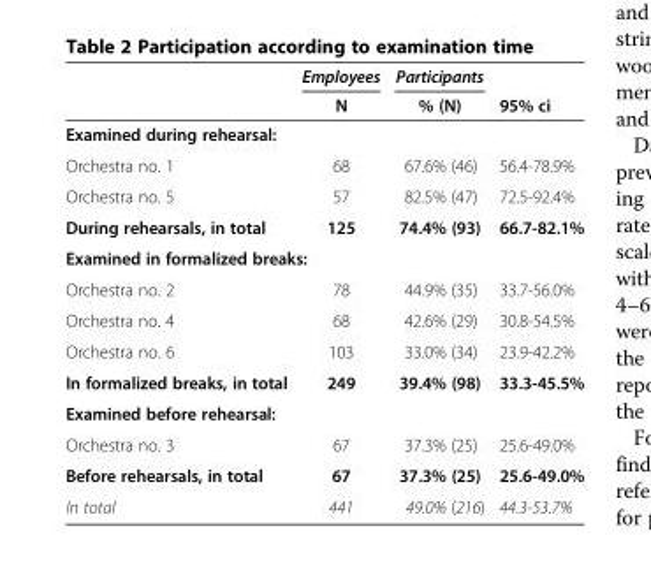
<table><thead><tr><td rowspan="2"></td><td rowspan="2">Employees N</td><td rowspan="2">Participants % (N)</td><td rowspan="2">95% ci</td></tr><tr></tr></thead><tbody><tr><td colspan="4">Examined during rehearsal:</td></tr><tr><td>Orchestra no. 1</td><td>68</td><td>67.6% (46)</td><td>56.4-78.9%</td></tr><tr><td>Orchestra no. 5</td><td>57</td><td>82.5% (47)</td><td>72.5-92.4%</td></tr><tr><td>During rehearsals, in total</td><td>125</td><td>74.4% (93)</td><td>66.7-82.1%</td></tr><tr><td colspan="4">Examined in formalized breaks:</td></tr><tr><td>Orchestra no. 2</td><td>78</td><td>44.9% (35)</td><td>33.7-56.0%</td></tr><tr><td>Orchestra no. 4</td><td>68</td><td>42.6% (29)</td><td>30.8-54.5%</td></tr><tr><td>Orchestra no. 6</td><td>103</td><td>33.0% (34)</td><td>23.9-42.2%</td></tr><tr><td>In formalized breaks, in total</td><td>249</td><td>39.4% (98)</td><td>33.3-45.5%</td></tr><tr><td colspan="4">Examined before rehearsal:</td></tr><tr><td>Orchestra no. 3</td><td>67</td><td>37.3% (25)</td><td>25.6-49.0%</td></tr><tr><td>Before rehearsals, in total</td><td>67</td><td>37.3% (25)</td><td>25.6-49.0%</td></tr><tr><td>In total</td><td>441</td><td>49.0% (216)</td><td>44.3-53.7%</td></tr></tbody></table>